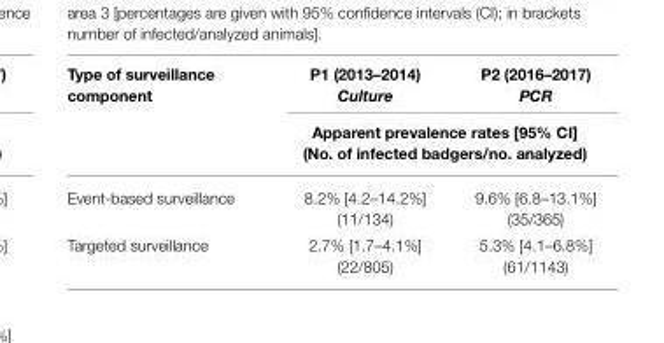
<table><thead><tr><td rowspan="2">Type of surveillance component</td><td>P1 (2013–2014) Culture</td><td>P2 (2016–2017) PCR</td></tr><tr><td colspan="2">Apparent prevalence rates [95% CI] (No. of infected badgers/no. analyzed)</td></tr></thead><tbody><tr><td>Event-based surveillance</td><td>8.2% [4.2–14.2%] (11/134)</td><td>9.6% [6.8–13.1%] (35/365)</td></tr><tr><td>Targeted surveillance</td><td>2.7% [1.7–4.1%] (22/805)</td><td>5.3% [4.1–6.8%] (61/1143)</td></tr></tbody></table>